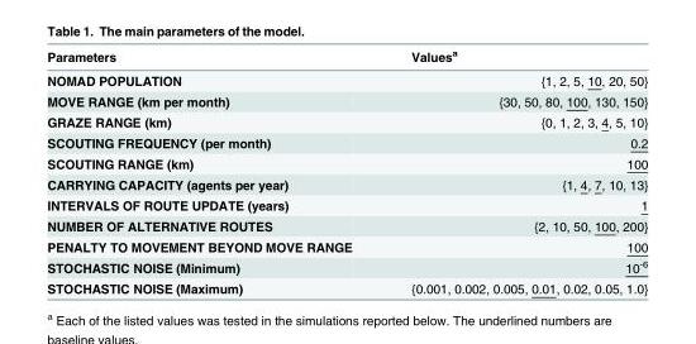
<table><thead><tr><td>Parameters</td><td>Values<sup>a</sup></td></tr></thead><tbody><tr><td>NOMAD POPULATION</td><td>{1, 2, 5, 10, 20, 50}</td></tr><tr><td>MOVE RANGE (km per month)</td><td>{30, 50, 80, 100, 130, 150}</td></tr><tr><td>GRAZE RANGE (km)</td><td>{0, 1, 2, 3, 4, 5, 10}</td></tr><tr><td>SCOUTING FREQUENCY (per month)</td><td>0.2</td></tr><tr><td>SCOUTING RANGE (km)</td><td>100</td></tr><tr><td>CARRYING CAPACITY (agents per year)</td><td>{1, 4, 7, 10, 13}</td></tr><tr><td>INTERVALS OF ROUTE UPDATE (years)</td><td>1</td></tr><tr><td>NUMBER OF ALTERNATIVE ROUTES</td><td>{2, 10, 50, 100, 200}</td></tr><tr><td>PENALTY TO MOVEMENT BEYOND MOVE RANGE</td><td>100</td></tr><tr><td>STOCHASTIC NOISE (Minimum)</td><td>10<sup>-6</sup></td></tr><tr><td>STOCHASTIC NOISE (Maximum)</td><td>{0.001, 0.002, 0.005, 0.01, 0.02, 0.05, 1.0}</td></tr></tbody></table>